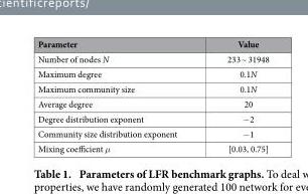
<table><thead><tr><td>Parameter</td><td>Value</td></tr></thead><tbody><tr><td>Number of nodes N</td><td>233 ~ 31948</td></tr><tr><td>Maximum degree</td><td>0.1N</td></tr><tr><td>Maximum community size</td><td>0.1N</td></tr><tr><td>Average degree</td><td>20</td></tr><tr><td>Degree distribution exponent</td><td>− 2</td></tr><tr><td>Community size distribution exponent</td><td>− 1</td></tr><tr><td>Mixing coefficient μ</td><td>[0.03, 0.75]</td></tr></tbody></table>